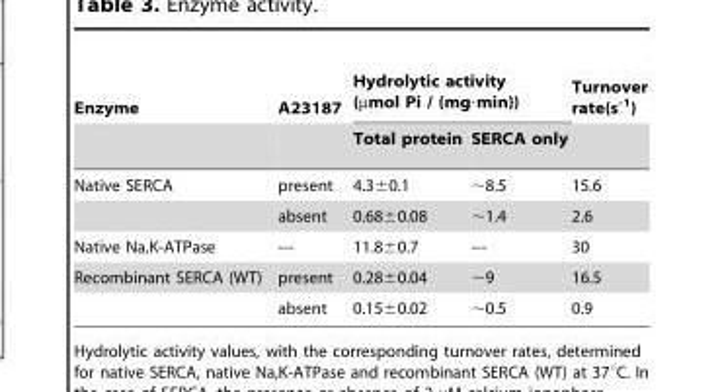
<table><thead><tr><td rowspan="2">Enzyme</td><td rowspan="2">A23187</td><td colspan="2">Hydrolytic activity (µmol Pi / (mg·min))</td><td rowspan="2">Turnover rate(s<sup>-1</sup>)</td></tr><tr><td>Total protein</td><td>SERCA only</td></tr></thead><tbody><tr><td rowspan="2">Native SERCA</td><td>present</td><td>4.3±0.1</td><td>∼8.5</td><td>15.6</td></tr><tr><td>absent</td><td>0.68±0.08</td><td>∼1.4</td><td>2.6</td></tr><tr><td>Native Na,K-ATPase</td><td>---</td><td>11.8±0.7</td><td>---</td><td>30</td></tr><tr><td rowspan="2">Recombinant SERCA (WT)</td><td>present</td><td>0.28±0.04</td><td>∼9</td><td>16.5</td></tr><tr><td>absent</td><td>0.15±0.02</td><td>∼0.5</td><td>0.9</td></tr></tbody></table>